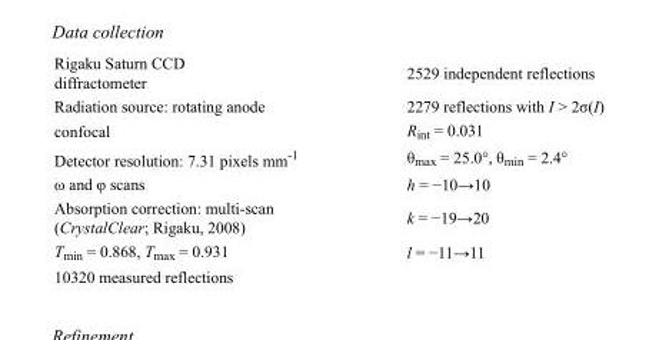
<table><tbody><tr><td>Rigaku Saturn CCD diffractometer</td><td>2529 independent reflections</td></tr><tr><td>Radiation source: rotating anode</td><td>2279 reflections with I &gt; 2σ(I)</td></tr><tr><td>confocal</td><td>R<sub>int</sub> = 0.031</td></tr><tr><td>Detector resolution: 7.31 pixels mm<sup>-1</sup></td><td>θ<sub>max</sub> = 25.0°, θ<sub>min</sub> = 2.4°</td></tr><tr><td>ω and φ scans</td><td>h = −10→10</td></tr><tr><td>Absorption correction: multi-scan (CrystalClear; Rigaku, 2008)</td><td>k = −19→20</td></tr><tr><td>T<sub>min</sub> = 0.868, T<sub>max</sub> = 0.931</td><td>l = −11→11</td></tr><tr><td>10320 measured reflections</td><td></td></tr></tbody></table>